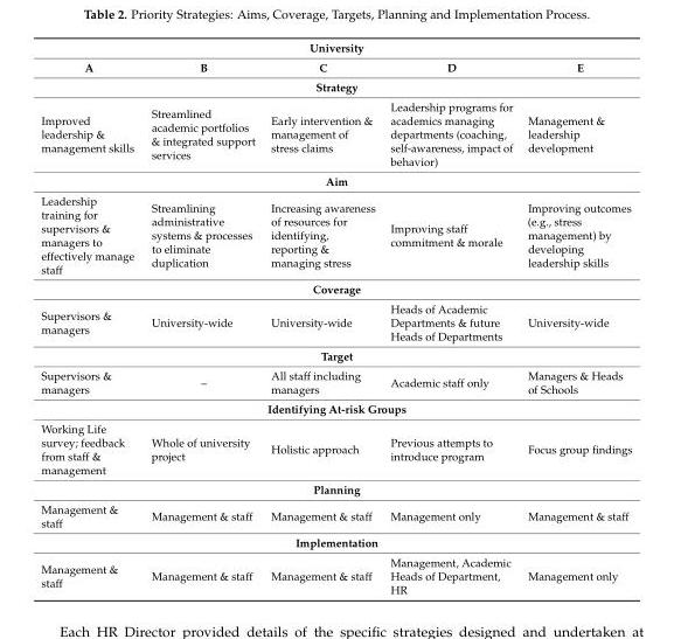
<table><thead><tr><td colspan="5">University</td></tr><tr><td>A</td><td>B</td><td>C</td><td>D</td><td>E</td></tr></thead><tbody><tr><td colspan="5">Strategy</td></tr><tr><td>Improved leadership &amp; management skills</td><td>Streamlined academic portfolios &amp; integrated support services</td><td>Early intervention &amp; management of stress claims</td><td>Leadership programs for academics managing departments (coaching, self-awareness, impact of behavior)</td><td>Management &amp; leadership development</td></tr><tr><td colspan="5">Aim</td></tr><tr><td>Leadership training for supervisors &amp; managers to effectively manage staff</td><td>Streamlining administrative systems &amp; processes to eliminate duplication</td><td>Increasing awareness of resources for identifying, reporting &amp; managing stress</td><td>Improving staff commitment &amp; morale</td><td>Improving outcomes (e.g., stress management) by developing leadership skills</td></tr><tr><td colspan="5">Coverage</td></tr><tr><td>Supervisors &amp; managers</td><td>University-wide</td><td>University-wide</td><td>Heads of Academic Departments &amp; future Heads of Departments</td><td>University-wide</td></tr><tr><td colspan="5">Target</td></tr><tr><td>Supervisors &amp; managers</td><td>–</td><td>All staff including managers</td><td>Academic staff only</td><td>Managers &amp; Heads of Schools</td></tr><tr><td colspan="5">Identifying At-risk Groups</td></tr><tr><td>Working Life survey; feedback from staff &amp; management</td><td>Whole of university project</td><td>Holistic approach</td><td>Previous attempts to introduce program</td><td>Focus group findings</td></tr><tr><td colspan="5">Planning</td></tr><tr><td>Management &amp; staff</td><td>Management &amp; staff</td><td>Management &amp; staff</td><td>Management only</td><td>Management &amp; staff</td></tr><tr><td colspan="5">Implementation</td></tr><tr><td>Management &amp; staff</td><td>Management &amp; staff</td><td>Management &amp; staff</td><td>Management, Academic Heads of Department, HR</td><td>Management only</td></tr></tbody></table>